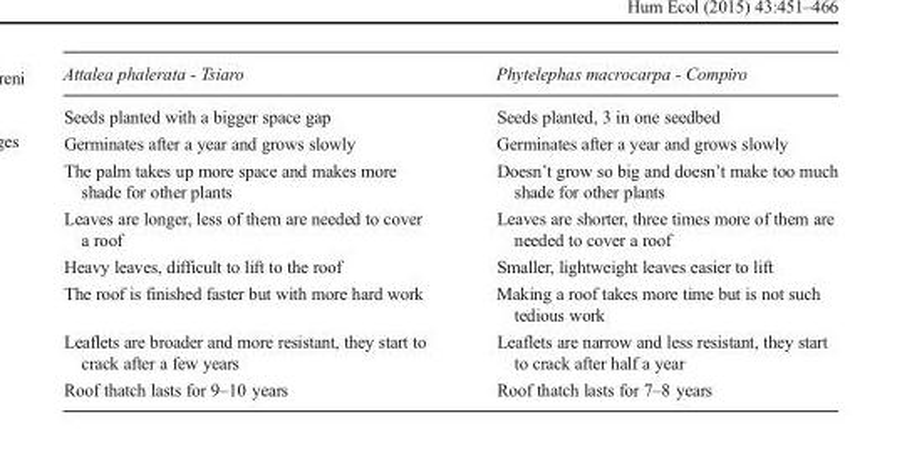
<table><thead><tr><td>Attalea phalerata - Tsiaro</td><td>Phytelephas macrocarpa - Compiro</td></tr></thead><tbody><tr><td>Seeds planted with a bigger space gap</td><td>Seeds planted, 3 in one seedbed</td></tr><tr><td>Germinates after a year and grows slowly</td><td>Germinates after a year and grows slowly</td></tr><tr><td>The palm takes up more space and makes more shade for other plants</td><td>Doesn’t grow so big and doesn’t make too much shade for other plants</td></tr><tr><td>Leaves are longer, less of them are needed to cover a roof</td><td>Leaves are shorter, three times more of them are needed to cover a roof</td></tr><tr><td>Heavy leaves, difficult to lift to the roof</td><td>Smaller, lightweight leaves easier to lift</td></tr><tr><td>The roof is finished faster but with more hard work</td><td>Making a roof takes more time but is not such tedious work</td></tr><tr><td>Leaflets are broader and more resistant, they start to crack after a few years</td><td>Leaflets are narrow and less resistant, they start to crack after half a year</td></tr><tr><td>Roof thatch lasts for 9–10 years</td><td>Roof thatch lasts for 7–8 years</td></tr></tbody></table>